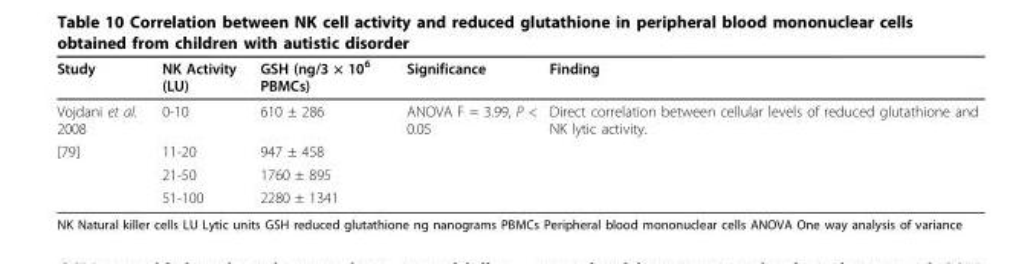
<table><thead><tr><td>Study</td><td>NK Activity (LU)</td><td>GSH (ng/3 × 10<sup>6</sup> PBMCs)</td><td>Significance</td><td>Finding</td></tr></thead><tbody><tr><td>Vojdani et al. 2008</td><td>0-10</td><td>610 ± 286</td><td>ANOVA F = 3.99, P &lt; 0.05</td><td>Direct correlation between cellular levels of reduced glutathione and NK lytic activity.</td></tr><tr><td rowspan="3">[79]</td><td>11-20</td><td>947 ± 458</td><td></td><td></td></tr><tr><td>21-50</td><td>1760 ± 895</td><td></td><td></td></tr><tr><td>51-100</td><td>2280 ± 1341</td><td></td><td></td></tr></tbody></table>